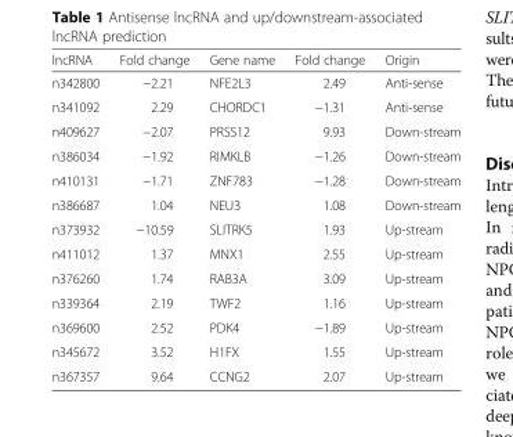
<table><thead><tr><td>lncRNA</td><td>Fold change</td><td>Gene name</td><td>Fold change</td><td>Origin</td></tr></thead><tbody><tr><td>n342800</td><td>−2.21</td><td>NFE2L3</td><td>2.49</td><td>Anti-sense</td></tr><tr><td>n341092</td><td>2.29</td><td>CHORDC1</td><td>−1.31</td><td>Anti-sense</td></tr><tr><td>n409627</td><td>−2.07</td><td>PRSS12</td><td>9.93</td><td>Down-stream</td></tr><tr><td>n386034</td><td>−1.92</td><td>RIMKLB</td><td>−1.26</td><td>Down-stream</td></tr><tr><td>n410131</td><td>−1.71</td><td>ZNF783</td><td>−1.28</td><td>Down-stream</td></tr><tr><td>n386687</td><td>1.04</td><td>NEU3</td><td>1.08</td><td>Down-stream</td></tr><tr><td>n373932</td><td>−10.59</td><td>SLITRK5</td><td>1.93</td><td>Up-stream</td></tr><tr><td>n411012</td><td>1.37</td><td>MNX1</td><td>2.55</td><td>Up-stream</td></tr><tr><td>n376260</td><td>1.74</td><td>RAB3A</td><td>3.09</td><td>Up-stream</td></tr><tr><td>n339364</td><td>2.19</td><td>TWF2</td><td>1.16</td><td>Up-stream</td></tr><tr><td>n369600</td><td>2.52</td><td>PDK4</td><td>−1.89</td><td>Up-stream</td></tr><tr><td>n345672</td><td>3.52</td><td>H1FX</td><td>1.55</td><td>Up-stream</td></tr><tr><td>n367357</td><td>9.64</td><td>CCNG2</td><td>2.07</td><td>Up-stream</td></tr></tbody></table>